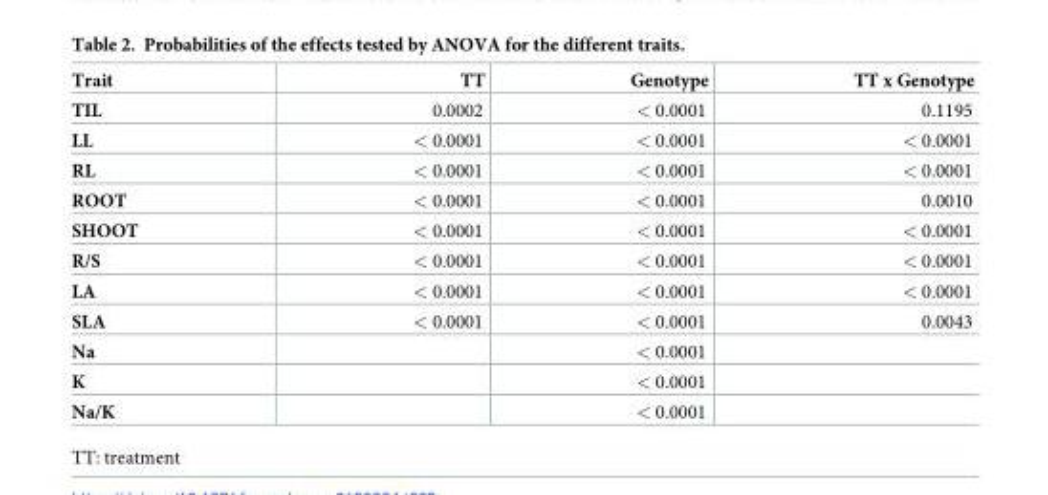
<table><thead><tr><td>Trait</td><td>TT</td><td>Genotype</td><td>TT x Genotype</td></tr></thead><tbody><tr><td>TIL</td><td>0.0002</td><td>&lt; 0.0001</td><td>0.1195</td></tr><tr><td>LL</td><td>&lt; 0.0001</td><td>&lt; 0.0001</td><td>&lt; 0.0001</td></tr><tr><td>RL</td><td>&lt; 0.0001</td><td>&lt; 0.0001</td><td>&lt; 0.0001</td></tr><tr><td>ROOT</td><td>&lt; 0.0001</td><td>&lt; 0.0001</td><td>0.0010</td></tr><tr><td>SHOOT</td><td>&lt; 0.0001</td><td>&lt; 0.0001</td><td>&lt; 0.0001</td></tr><tr><td>R/S</td><td>&lt; 0.0001</td><td>&lt; 0.0001</td><td>&lt; 0.0001</td></tr><tr><td>LA</td><td>&lt; 0.0001</td><td>&lt; 0.0001</td><td>&lt; 0.0001</td></tr><tr><td>SLA</td><td>&lt; 0.0001</td><td>&lt; 0.0001</td><td>0.0043</td></tr><tr><td>Na</td><td></td><td>&lt; 0.0001</td><td></td></tr><tr><td>K</td><td></td><td>&lt; 0.0001</td><td></td></tr><tr><td>Na/K</td><td></td><td>&lt; 0.0001</td><td></td></tr></tbody></table>